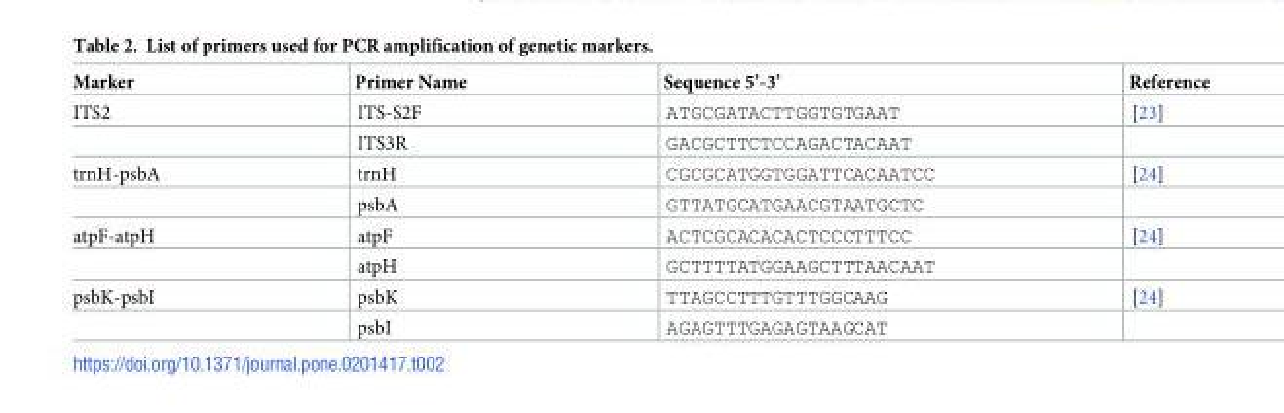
<table><thead><tr><td>Marker</td><td>Primer Name</td><td>Sequence 5’-3’</td><td>Reference</td></tr></thead><tbody><tr><td rowspan="2">ITS2</td><td>ITS-S2F</td><td>ATGCGATACTTGGTGTGAAT</td><td>[23]</td></tr><tr><td>ITS3R</td><td>GACGCTTCTCCAGACTACAAT</td><td></td></tr><tr><td rowspan="2">trnH-psbA</td><td>trnH</td><td>CGCGCATGGTGGATTCACAATCC</td><td>[24]</td></tr><tr><td>psbA</td><td>GTTATGCATGAACGTAATGCTC</td><td></td></tr><tr><td rowspan="2">atpF-atpH</td><td>atpF</td><td>ACTCGCACACACTCCCTTTCC</td><td>[24]</td></tr><tr><td>atpH</td><td>GCTTTTATGGAAGCTTTAACAAT</td><td></td></tr><tr><td rowspan="2">psbK-psbI</td><td>psbK</td><td>TTAGCCTTTGTTTGGCAAG</td><td>[24]</td></tr><tr><td>psbI</td><td>AGAGTTTGAGAGTAAGCAT</td><td></td></tr></tbody></table>